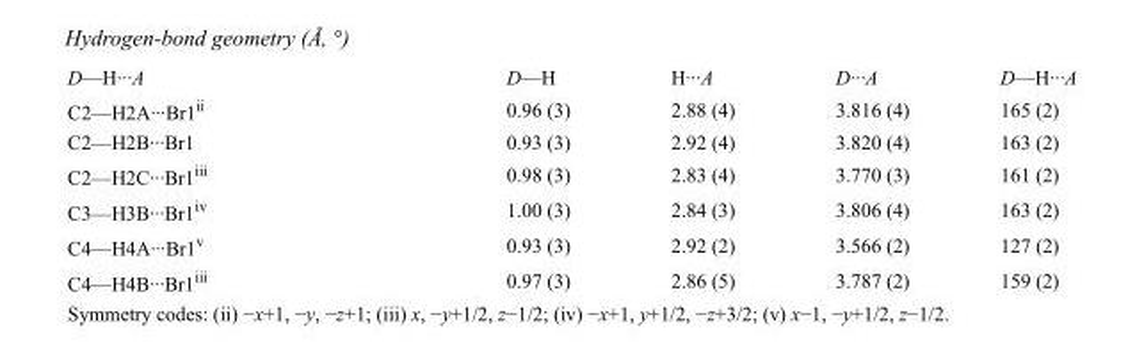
<table><tbody><tr><td>D—H···A</td><td>D—H</td><td>H···A</td><td>D···A</td><td>D—H···A</td></tr><tr><td>C2—H2A···Br1<sup>ii</sup></td><td>0.96 (3)</td><td>2.88 (4)</td><td>3.816 (4)</td><td>165 (2)</td></tr><tr><td>C2—H2B···Br1</td><td>0.93 (3)</td><td>2.92 (4)</td><td>3.820 (4)</td><td>163 (2)</td></tr><tr><td>C2—H2C···Br1<sup>iii</sup></td><td>0.98 (3)</td><td>2.83 (4)</td><td>3.770 (3)</td><td>161 (2)</td></tr><tr><td>C3—H3B···Br1<sup>iv</sup></td><td>1.00 (3)</td><td>2.84 (3)</td><td>3.806 (4)</td><td>163 (2)</td></tr><tr><td>C4—H4A···Br1<sup>v</sup></td><td>0.93 (3)</td><td>2.92 (2)</td><td>3.566 (2)</td><td>127 (2)</td></tr><tr><td>C4—H4B···Br1<sup>iii</sup></td><td>0.97 (3)</td><td>2.86 (5)</td><td>3.787 (2)</td><td>159 (2)</td></tr></tbody></table>